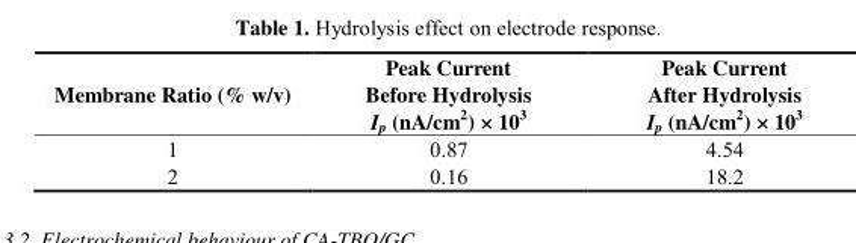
<table><thead><tr><td>Membrane Ratio (% w/v)</td><td>Peak Current Before Hydrolysis I<sub>p</sub> (nA/cm<sup>2</sup>) × 10<sup>3</sup></td><td>Peak Current After Hydrolysis I<sub>p</sub> (nA/cm<sup>2</sup>) × 10<sup>3</sup></td></tr></thead><tbody><tr><td>1</td><td>0.87</td><td>4.54</td></tr><tr><td>2</td><td>0.16</td><td>18.2</td></tr></tbody></table>